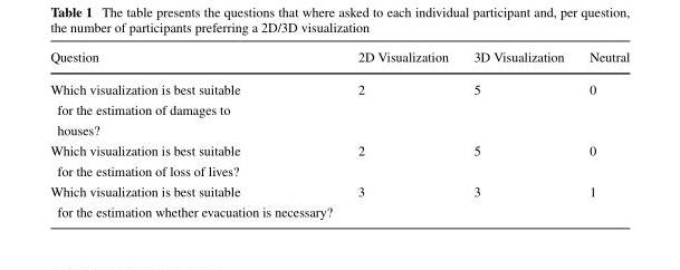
<table><thead><tr><td>Question</td><td>2D Visualization</td><td>3D Visualization</td><td>Neutral</td></tr></thead><tbody><tr><td>Which visualization is best suitable</td><td>2</td><td>5</td><td>0</td></tr><tr><td colspan="4">for the estimation of damages to</td></tr><tr><td colspan="4">houses?</td></tr><tr><td>Which visualization is best suitable</td><td>2</td><td>5</td><td>0</td></tr><tr><td colspan="4">for the estimation of loss of lives?</td></tr><tr><td>Which visualization is best suitable</td><td>3</td><td>3</td><td>1</td></tr><tr><td colspan="4">for the estimation whether evacuation is necessary?</td></tr></tbody></table>